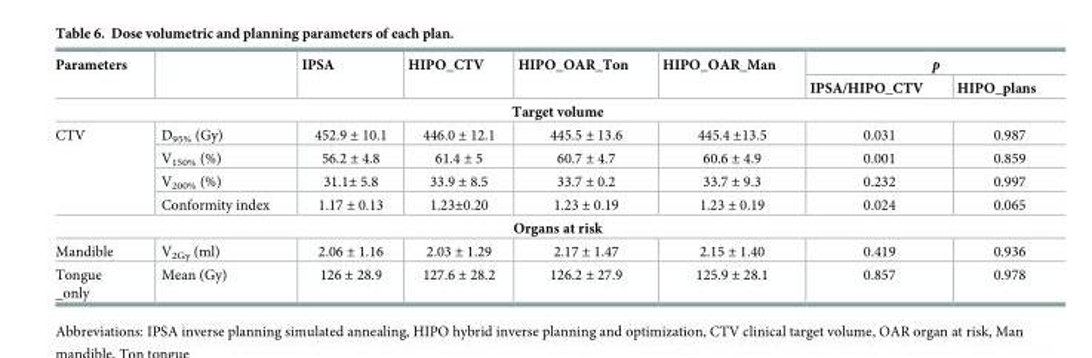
<table><thead><tr><td rowspan="2">Parameters</td><td rowspan="2"></td><td rowspan="2">IPSA</td><td rowspan="2">HIPO_CTV</td><td rowspan="2">HIPO_OAR_Ton</td><td rowspan="2">HIPO_OAR_Man</td><td colspan="2">p</td></tr><tr><td>IPSA/HIPO_CTV</td><td>HIPO_plans</td></tr></thead><tbody><tr><td colspan="8">Target volume</td></tr><tr><td rowspan="4">CTV</td><td>D<sub>95%</sub> (Gy)</td><td>452.9 ± 10.1</td><td>446.0 ± 12.1</td><td>445.5 ± 13.6</td><td>445.4 ±13.5</td><td>0.031</td><td>0.987</td></tr><tr><td>V<sub>150%</sub> (%)</td><td>56.2 ± 4.8</td><td>61.4 ± 5</td><td>60.7 ± 4.7</td><td>60.6 ± 4.9</td><td>0.001</td><td>0.859</td></tr><tr><td>V<sub>200%</sub> (%)</td><td>31.1± 5.8</td><td>33.9 ± 8.5</td><td>33.7 ± 0.2</td><td>33.7 ± 9.3</td><td>0.232</td><td>0.997</td></tr><tr><td>Conformity index</td><td>1.17 ± 0.13</td><td>1.23±0.20</td><td>1.23 ± 0.19</td><td>1.23 ± 0.19</td><td>0.024</td><td>0.065</td></tr><tr><td colspan="8">Organs at risk</td></tr><tr><td>Mandible</td><td>V<sub>2Gy</sub> (ml)</td><td>2.06 ± 1.16</td><td>2.03 ± 1.29</td><td>2.17 ± 1.47</td><td>2.15 ± 1.40</td><td>0.419</td><td>0.936</td></tr><tr><td>Tongue _only</td><td>Mean (Gy)</td><td>126 ± 28.9</td><td>127.6 ± 28.2</td><td>126.2 ± 27.9</td><td>125.9 ± 28.1</td><td>0.857</td><td>0.978</td></tr></tbody></table>